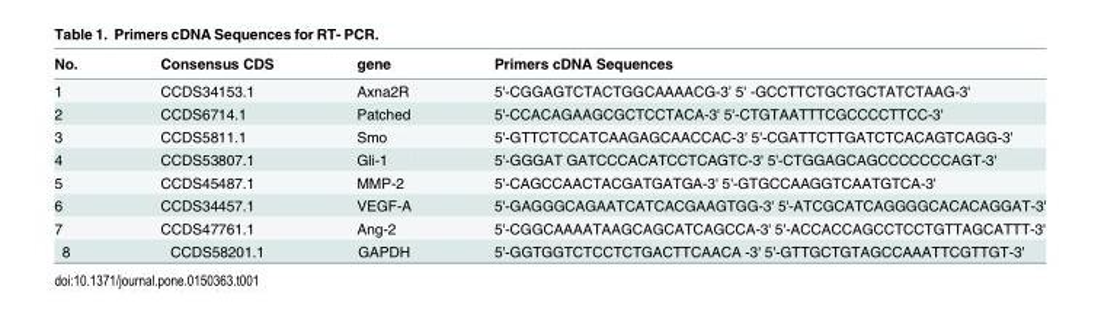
<table><thead><tr><td>No.</td><td>Consensus CDS</td><td>gene</td><td>Primers cDNA Sequences</td></tr></thead><tbody><tr><td>1</td><td>CCDS34153.1</td><td>Axna2R</td><td>5&#x27;-CGGAGTCTACTGGCAAAACG-3’ 5&#x27; -GCCTTCTGCTGCTATCTAAG-3&#x27;</td></tr><tr><td>2</td><td>CCDS6714.1</td><td>Patched</td><td>5&#x27;-CCACAGAAGCGCTCCTACA-3&#x27; 5&#x27;-CTGTAATTTCGCCCCTTCC-3&#x27;</td></tr><tr><td>3</td><td>CCDS5811.1</td><td>Smo</td><td>5&#x27;-GTTCTCCATCAAGAGCAACCAC-3&#x27; 5&#x27;-CGATTCTTGATCTCACAGTCAGG-3&#x27;</td></tr><tr><td>4</td><td>CCDS53807.1</td><td>Gli-1</td><td>5&#x27;-GGGAT GATCCCACATCCTCAGTC-3&#x27; 5&#x27;-CTGGAGCAGCCCCCCCAGT-3&#x27;</td></tr><tr><td>5</td><td>CCDS45487.1</td><td>MMP-2</td><td>5&#x27;-CAGCCAACTACGATGATGA-3&#x27; 5&#x27;-GTGCCAAGGTCAATGTCA-3&#x27;</td></tr><tr><td>6</td><td>CCDS34457.1</td><td>VEGF-A</td><td>5&#x27;-GAGGGCAGAATCATCACGAAGTGG-3&#x27; 5&#x27;-ATCGCATCAGGGGCACACAGGAT-3&#x27;</td></tr><tr><td>7</td><td>CCDS47761.1</td><td>Ang-2</td><td>5&#x27;-CGGCAAAATAAGCAGCATCAGCCA-3&#x27; 5&#x27;-ACCACCAGCCTCCTGTTAGCATTT-3&#x27;</td></tr><tr><td>8</td><td>CCDS58201.1</td><td>GAPDH</td><td>5&#x27;-GGTGGTCTCCTCTGACTTCAACA -3&#x27; 5&#x27;-GTTGCTGTAGCCAAATTCGTTGT-3&#x27;</td></tr></tbody></table>